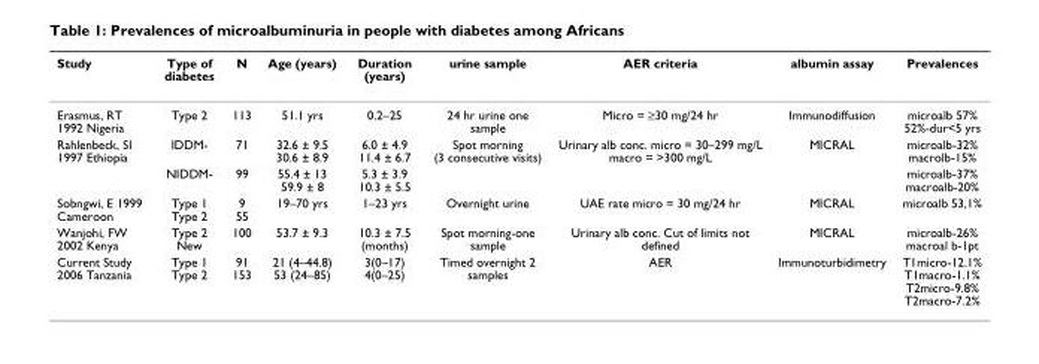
<table><thead><tr><td>Study</td><td>Type of diabetes</td><td>N</td><td>Age (years)</td><td>Duration (years)</td><td>urine sample</td><td>AER criteria</td><td>albumin assay</td><td>Prevalences</td></tr></thead><tbody><tr><td>Erasmus, RT 1992 Nigeria</td><td>Type 2</td><td>113</td><td>51.1 yrs</td><td>0.2–25</td><td>24 hr urine one sample</td><td>Micro = ≥30 mg/24 hr</td><td>Immunodiffusion</td><td>microalb 57% 52%-dur&lt;5 yrs</td></tr><tr><td rowspan="2">Rahlenbeck, SI 1997 Ethiopia</td><td>IDDM-</td><td>71</td><td>32.6 ± 9.5 30.6 ± 8.9</td><td>6.0 ± 4.9 11.4 ± 6.7</td><td>Spot morning (3 consecutive visits)</td><td>Urinary alb conc. micro = 30–299 mg/L macro = &gt;300 mg/L</td><td>MICRAL</td><td>microalb-32% macrolb-15%</td></tr><tr><td>NIDDM-</td><td>99</td><td>55.4 ± 13 59.9 ± 8</td><td>5.3 ± 3.9 10.3 ± 5.5</td><td></td><td></td><td></td><td>microalb-37% macroalb-20%</td></tr><tr><td>Sobngwi, E 1999 Cameroon</td><td>Type 1 Type 2</td><td>9 55</td><td>19–70 yrs</td><td>1–23 yrs</td><td>Overnight urine</td><td>UAE rate micro = 30 mg/24 hr</td><td>MICRAL</td><td>microalb 53,1%</td></tr><tr><td>Wanjohi, FW 2002 Kenya</td><td>Type 2 New</td><td>100</td><td>53.7 ± 9.3</td><td>10.3 ± 7.5 (months)</td><td>Spot morning-one sample</td><td>Urinary alb conc. Cut of limits not defined</td><td>MICRAL</td><td>microalb-26% macroal b-1pt</td></tr><tr><td>Current Study 2006 Tanzania</td><td>Type 1 Type 2</td><td>91 153</td><td>21 (4–44.8) 53 (24–85)</td><td>3(0–17) 4(0–25)</td><td>Timed overnight 2 samples</td><td>AER</td><td>Immunoturbidimetry</td><td>T1micro-12.1% T1macro-1.1% T2micro-9.8% T2macro-7.2%</td></tr></tbody></table>